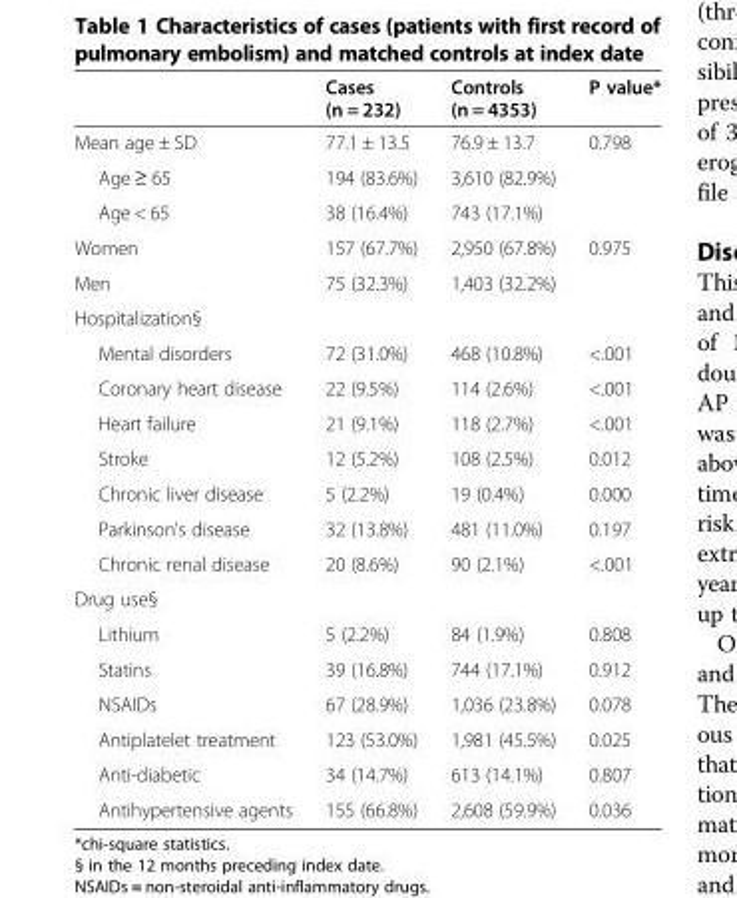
<table><thead><tr><td></td><td>Cases (n = 232)</td><td>Controls (n = 4353)</td><td>P value*</td></tr></thead><tbody><tr><td>Mean age ± SD</td><td>77.1 ± 13.5</td><td>76.9 ± 13.7</td><td>0.798</td></tr><tr><td>Age ≥ 65</td><td>194 (83.6%)</td><td>3,610 (82.9%)</td><td></td></tr><tr><td>Age &lt; 65</td><td>38 (16.4%)</td><td>743 (17.1%)</td><td></td></tr><tr><td>Women</td><td>157 (67.7%)</td><td>2,950 (67.8%)</td><td>0.975</td></tr><tr><td>Men</td><td>75 (32.3%)</td><td>1,403 (32.2%)</td><td></td></tr><tr><td colspan="4">Hospitalization§</td></tr><tr><td>Mental disorders</td><td>72 (31.0%)</td><td>468 (10.8%)</td><td>&lt;.001</td></tr><tr><td>Coronary heart disease</td><td>22 (9.5%)</td><td>114 (2.6%)</td><td>&lt;.001</td></tr><tr><td>Heart failure</td><td>21 (9.1%)</td><td>118 (2.7%)</td><td>&lt;.001</td></tr><tr><td>Stroke</td><td>12 (5.2%)</td><td>108 (2.5%)</td><td>0.012</td></tr><tr><td>Chronic liver disease</td><td>5 (2.2%)</td><td>19 (0.4%)</td><td>0.000</td></tr><tr><td>Parkinson’s disease</td><td>32 (13.8%)</td><td>481 (11.0%)</td><td>0.197</td></tr><tr><td>Chronic renal disease</td><td>20 (8.6%)</td><td>90 (2.1%)</td><td>&lt;.001</td></tr><tr><td colspan="4">Drug use§</td></tr><tr><td>Lithium</td><td>5 (2.2%)</td><td>84 (1.9%)</td><td>0.808</td></tr><tr><td>Statins</td><td>39 (16.8%)</td><td>744 (17.1%)</td><td>0.912</td></tr><tr><td>NSAIDs</td><td>67 (28.9%)</td><td>1,036 (23.8%)</td><td>0.078</td></tr><tr><td>Antiplatelet treatment</td><td>123 (53.0%)</td><td>1,981 (45.5%)</td><td>0.025</td></tr><tr><td>Anti-diabetic</td><td>34 (14.7%)</td><td>613 (14.1%)</td><td>0.807</td></tr><tr><td>Antihypertensive agents</td><td>155 (66.8%)</td><td>2,608 (59.9%)</td><td>0.036</td></tr></tbody></table>